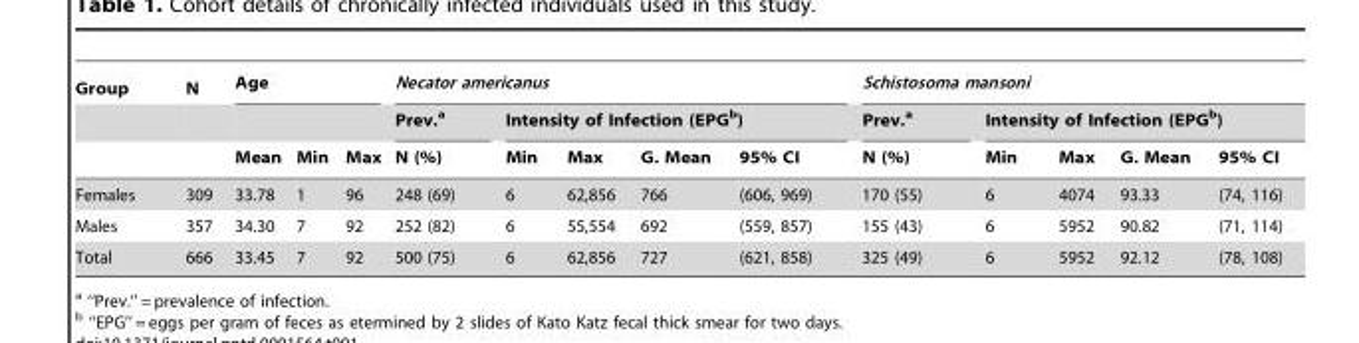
<table><thead><tr><td rowspan="3">Group</td><td rowspan="3">N</td><td colspan="3">Age</td><td colspan="5">Necator americanus</td><td colspan="5">Schistosoma mansoni</td></tr><tr><td rowspan="2">Mean</td><td rowspan="2">Min</td><td rowspan="2">Max</td><td rowspan="2">Prev.<sup>a</sup> N (%)</td><td colspan="4">Intensity of Infection (EPG<sup>b</sup>)</td><td rowspan="2">Prev.<sup>a</sup> N (%)</td><td colspan="4">Intensity of Infection (EPG<sup>b</sup>)</td></tr><tr><td>Min</td><td>Max</td><td>G. Mean</td><td>95% CI</td><td>Min</td><td>Max</td><td>G. Mean</td><td>95% CI</td></tr></thead><tbody><tr><td>Females</td><td>309</td><td>33.78</td><td>1</td><td>96</td><td>248 (69)</td><td>6</td><td>62,856</td><td>766</td><td>(606, 969)</td><td>170 (55)</td><td>6</td><td>4074</td><td>93.33</td><td>(74, 116)</td></tr><tr><td>Males</td><td>357</td><td>34.30</td><td>7</td><td>92</td><td>252 (82)</td><td>6</td><td>55,554</td><td>692</td><td>(559, 857)</td><td>155 (43)</td><td>6</td><td>5952</td><td>90.82</td><td>(71, 114)</td></tr><tr><td>Total</td><td>666</td><td>33.45</td><td>7</td><td>92</td><td>500 (75)</td><td>6</td><td>62,856</td><td>727</td><td>(621, 858)</td><td>325 (49)</td><td>6</td><td>5952</td><td>92.12</td><td>(78, 108)</td></tr></tbody></table>